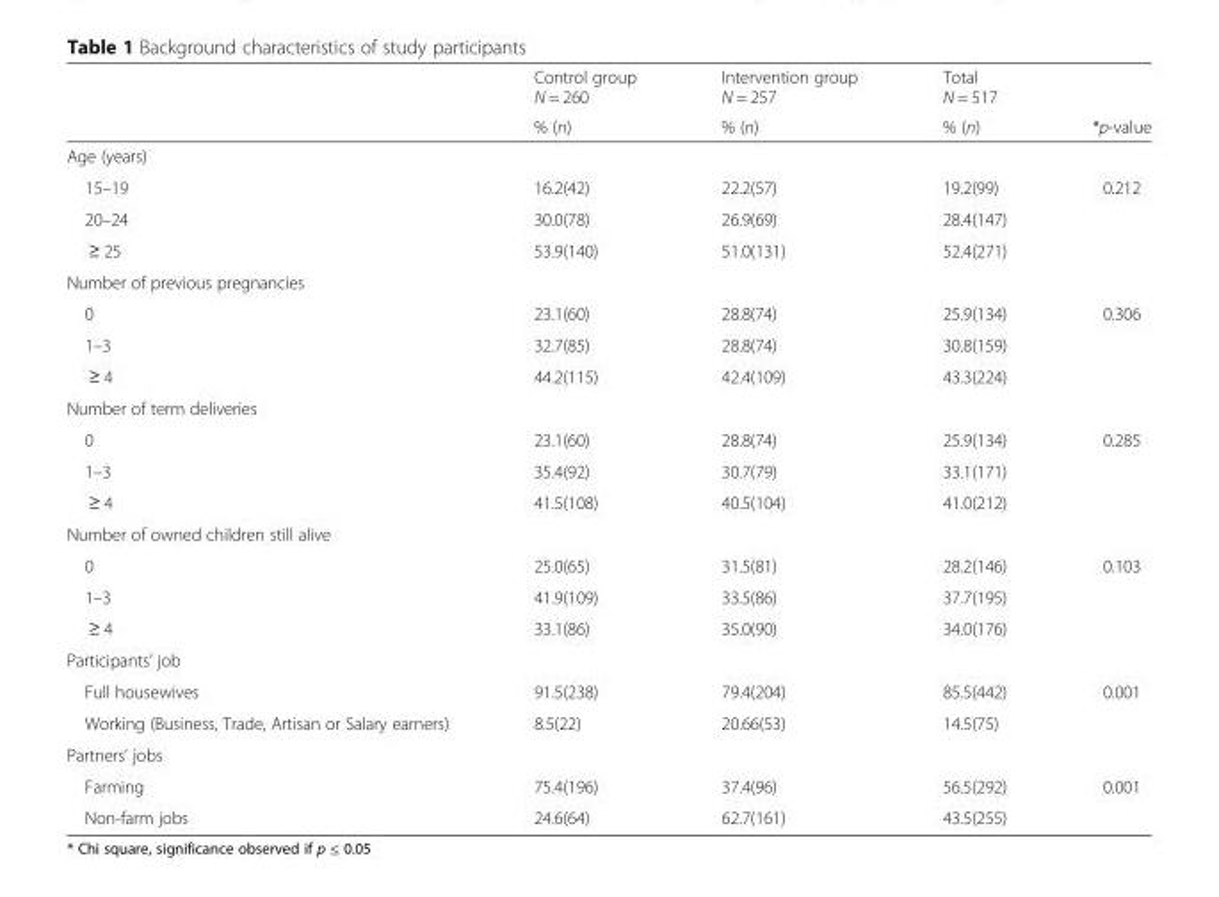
<table><thead><tr><td rowspan="2"></td><td rowspan="2">Control group N = 260 % (n)</td><td rowspan="2">Intervention group N = 257 % (n)</td><td rowspan="2">Total N = 517 % (n)</td><td rowspan="2">*p-value</td></tr><tr></tr></thead><tbody><tr><td colspan="5">Age (years)</td></tr><tr><td>15–19</td><td>16.2(42)</td><td>22.2(57)</td><td>19.2(99)</td><td rowspan="3">0.212</td></tr><tr><td>20–24</td><td>30.0(78)</td><td>26.9(69)</td><td>28.4(147)</td></tr><tr><td>≥ 25</td><td>53.9(140)</td><td>51.0(131)</td><td>52.4(271)</td></tr><tr><td colspan="5">Number of previous pregnancies</td></tr><tr><td>0</td><td>23.1(60)</td><td>28.8(74)</td><td>25.9(134)</td><td rowspan="3">0.306</td></tr><tr><td>1–3</td><td>32.7(85)</td><td>28.8(74)</td><td>30.8(159)</td></tr><tr><td>≥ 4</td><td>44.2(115)</td><td>42.4(109)</td><td>43.3(224)</td></tr><tr><td colspan="5">Number of term deliveries</td></tr><tr><td>0</td><td>23.1(60)</td><td>28.8(74)</td><td>25.9(134)</td><td rowspan="3">0.285</td></tr><tr><td>1–3</td><td>35.4(92)</td><td>30.7(79)</td><td>33.1(171)</td></tr><tr><td>≥ 4</td><td>41.5(108)</td><td>40.5(104)</td><td>41.0(212)</td></tr><tr><td colspan="5">Number of owned children still alive</td></tr><tr><td>0</td><td>25.0(65)</td><td>31.5(81)</td><td>28.2(146)</td><td rowspan="3">0.103</td></tr><tr><td>1–3</td><td>41.9(109)</td><td>33.5(86)</td><td>37.7(195)</td></tr><tr><td>≥ 4</td><td>33.1(86)</td><td>35.0(90)</td><td>34.0(176)</td></tr><tr><td colspan="5">Participants’ job</td></tr><tr><td>Full housewives</td><td>91.5(238)</td><td>79.4(204)</td><td>85.5(442)</td><td rowspan="2">0.001</td></tr><tr><td>Working (Business, Trade, Artisan or Salary earners)</td><td>8.5(22)</td><td>20.66(53)</td><td>14.5(75)</td></tr><tr><td colspan="5">Partners’ jobs</td></tr><tr><td>Farming</td><td>75.4(196)</td><td>37.4(96)</td><td>56.5(292)</td><td rowspan="2">0.001</td></tr><tr><td>Non-farm jobs</td><td>24.6(64)</td><td>62.7(161)</td><td>43.5(255)</td></tr></tbody></table>